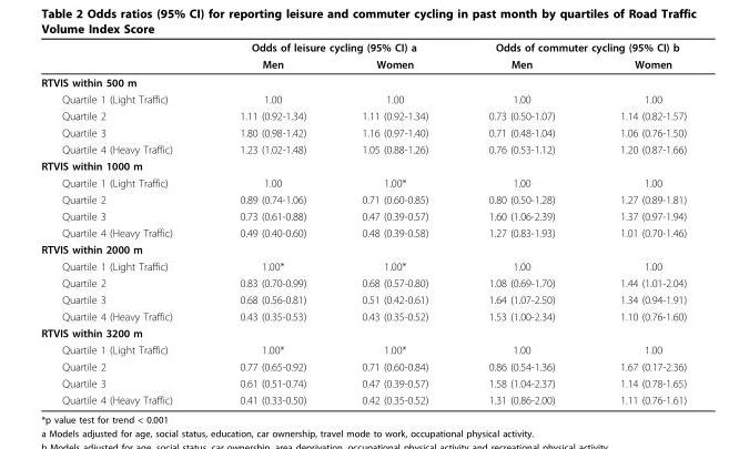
<table><thead><tr><td rowspan="2"></td><td colspan="2">Odds of leisure cycling (95% CI) a</td><td colspan="2">Odds of commuter cycling (95% CI) b</td></tr><tr><td>Men</td><td>Women</td><td>Men</td><td>Women</td></tr></thead><tbody><tr><td colspan="5">RTVIS within 500 m</td></tr><tr><td>Quartile 1 (Light Traffic)</td><td>1.00</td><td>1.00</td><td>1.00</td><td>1.00</td></tr><tr><td>Quartile 2</td><td>1.11 (0.92-1.34)</td><td>1.11 (0.92-1.34)</td><td>0.73 (0.50-1.07)</td><td>1.14 (0.82-1.57)</td></tr><tr><td>Quartile 3</td><td>1.80 (0.98-1.42)</td><td>1.16 (0.97-1.40)</td><td>0.71 (0.48-1.04)</td><td>1.06 (0.76-1.50)</td></tr><tr><td>Quartile 4 (Heavy Traffic)</td><td>1.23 (1.02-1.48)</td><td>1.05 (0.88-1.26)</td><td>0.76 (0.53-1.12)</td><td>1.20 (0.87-1.66)</td></tr><tr><td colspan="5">RTVIS within 1000 m</td></tr><tr><td>Quartile 1 (Light Traffic)</td><td>1.00</td><td>1.00*</td><td>1.00</td><td>1.00</td></tr><tr><td>Quartile 2</td><td>0.89 (0.74-1.06)</td><td>0.71 (0.60-0.85)</td><td>0.80 (0.50-1.28)</td><td>1.27 (0.89-1.81)</td></tr><tr><td>Quartile 3</td><td>0.73 (0.61-0.88)</td><td>0.47 (0.39-0.57)</td><td>1.60 (1.06-2.39)</td><td>1.37 (0.97-1.94)</td></tr><tr><td>Quartile 4 (Heavy Traffic)</td><td>0.49 (0.40-0.60)</td><td>0.48 (0.39-0.58)</td><td>1.27 (0.83-1.93)</td><td>1.01 (0.70-1.46)</td></tr><tr><td colspan="5">RTVIS within 2000 m</td></tr><tr><td>Quartile 1 (Light Traffic)</td><td>1.00*</td><td>1.00*</td><td>1.00</td><td>1.00</td></tr><tr><td>Quartile 2</td><td>0.83 (0.70-0.99)</td><td>0.68 (0.57-0.80)</td><td>1.08 (0.69-1.70)</td><td>1.44 (1.01-2.04)</td></tr><tr><td>Quartile 3</td><td>0.68 (0.56-0.81)</td><td>0.51 (0.42-0.61)</td><td>1.64 (1.07-2.50)</td><td>1.34 (0.94-1.91)</td></tr><tr><td>Quartile 4 (Heavy Traffic)</td><td>0.43 (0.35-0.53)</td><td>0.43 (0.35-0.52)</td><td>1.53 (1.00-2.34)</td><td>1.10 (0.76-1.60)</td></tr><tr><td colspan="5">RTVIS within 3200 m</td></tr><tr><td>Quartile 1 (Light Traffic)</td><td>1.00*</td><td>1.00*</td><td>1.00</td><td>1.00</td></tr><tr><td>Quartile 2</td><td>0.77 (0.65-0.92)</td><td>0.71 (0.60-0.84)</td><td>0.86 (0.54-1.36)</td><td>1.67 (0.17-2.36)</td></tr><tr><td>Quartile 3</td><td>0.61 (0.51-0.74)</td><td>0.47 (0.39-0.57)</td><td>1.58 (1.04-2.37)</td><td>1.14 (0.78-1.65)</td></tr><tr><td>Quartile 4 (Heavy Traffic)</td><td>0.41 (0.33-0.50)</td><td>0.42 (0.35-0.52)</td><td>1.31 (0.86-2.00)</td><td>1.11 (0.76-1.61)</td></tr></tbody></table>